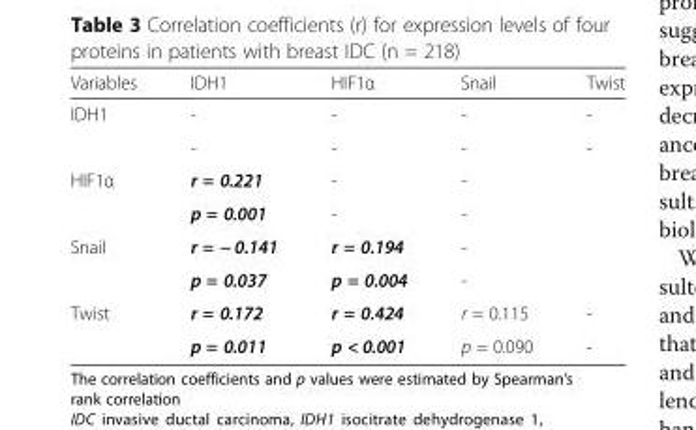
<table><thead><tr><td>Variables</td><td>IDH1</td><td>HIF1α</td><td>Snail</td><td>Twist</td></tr></thead><tbody><tr><td rowspan="2">IDH1</td><td>-</td><td>-</td><td>-</td><td>-</td></tr><tr><td>-</td><td>-</td><td>-</td><td>-</td></tr><tr><td rowspan="2">HIF1α</td><td>r = 0.221</td><td>-</td><td>-</td><td rowspan="2"></td></tr><tr><td>p = 0.001</td><td>-</td><td>-</td></tr><tr><td rowspan="2">Snail</td><td>r = − 0.141</td><td>r = 0.194</td><td>-</td><td rowspan="2"></td></tr><tr><td>p = 0.037</td><td>p = 0.004</td><td>-</td></tr><tr><td rowspan="2">Twist</td><td>r = 0.172</td><td>r = 0.424</td><td>r = 0.115</td><td>-</td></tr><tr><td>p = 0.011</td><td>p &lt; 0.001</td><td>p = 0.090</td><td>-</td></tr></tbody></table>